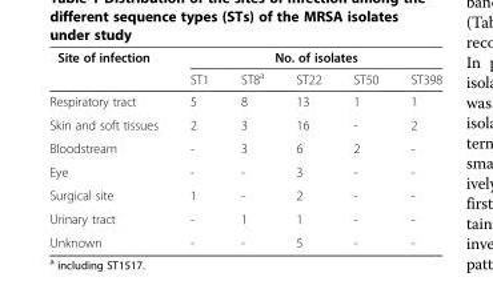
<table><thead><tr><td rowspan="2">Site of infection</td><td colspan="5">No. of isolates</td></tr><tr><td>ST1</td><td>ST8<sup>a</sup></td><td>ST22</td><td>ST50</td><td>ST398</td></tr></thead><tbody><tr><td>Respiratory tract</td><td>5</td><td>8</td><td>13</td><td>1</td><td>1</td></tr><tr><td>Skin and soft tissues</td><td>2</td><td>3</td><td>16</td><td>-</td><td>2</td></tr><tr><td>Bloodstream</td><td>-</td><td>3</td><td>6</td><td>2</td><td>-</td></tr><tr><td>Eye</td><td>-</td><td>-</td><td>3</td><td>-</td><td>-</td></tr><tr><td>Surgical site</td><td>1</td><td>-</td><td>2</td><td>-</td><td>-</td></tr><tr><td>Urinary tract</td><td>-</td><td>1</td><td>1</td><td>-</td><td>-</td></tr><tr><td>Unknown</td><td>-</td><td>-</td><td>5</td><td>-</td><td>-</td></tr></tbody></table>